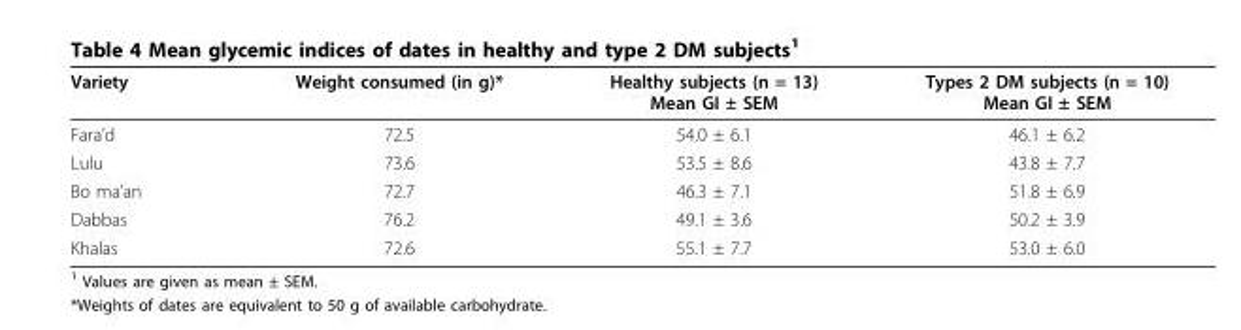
<table><thead><tr><td>Variety</td><td>Weight consumed (in g)*</td><td>Healthy subjects (n = 13) Mean GI ± SEM</td><td>Types 2 DM subjects (n = 10) Mean GI ± SEM</td></tr></thead><tbody><tr><td>Fara’d</td><td>72.5</td><td>54.0 ± 6.1</td><td>46.1 ± 6.2</td></tr><tr><td>Lulu</td><td>73.6</td><td>53.5 ± 8.6</td><td>43.8 ± 7.7</td></tr><tr><td>Bo ma’an</td><td>72.7</td><td>46.3 ± 7.1</td><td>51.8 ± 6.9</td></tr><tr><td>Dabbas</td><td>76.2</td><td>49.1 ± 3.6</td><td>50.2 ± 3.9</td></tr><tr><td>Khalas</td><td>72.6</td><td>55.1 ± 7.7</td><td>53.0 ± 6.0</td></tr></tbody></table>